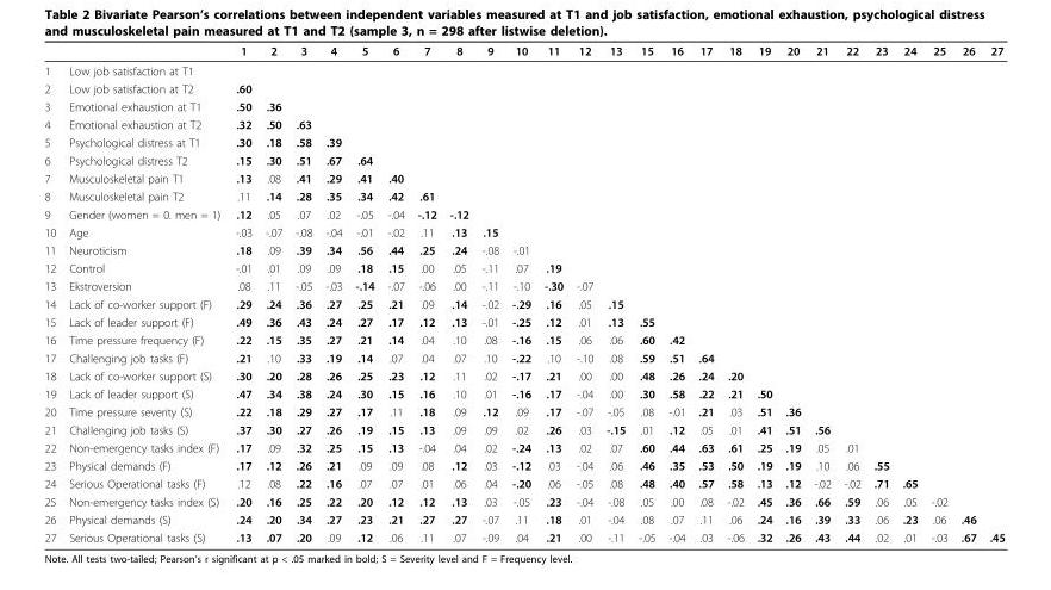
<table><thead><tr><td></td><td></td><td>1</td><td>2</td><td>3</td><td>4</td><td>5</td><td>6</td><td>7</td><td>8</td><td>9</td><td>10</td><td>11</td><td>12</td><td>13</td><td>15</td><td>16</td><td>17</td><td>18</td><td>19</td><td>20</td><td>21</td><td>22</td><td>23</td><td>24</td><td>25</td><td>26</td><td>27</td></tr></thead><tbody><tr><td>1</td><td>Low job satisfaction at T1</td><td></td><td></td><td></td><td></td><td></td><td></td><td></td><td></td><td></td><td></td><td></td><td></td><td></td><td></td><td></td><td></td><td></td><td></td><td></td><td></td><td></td><td></td><td></td><td></td><td></td><td></td></tr><tr><td>2</td><td>Low job satisfaction at T2</td><td>.60</td><td></td><td></td><td></td><td></td><td></td><td></td><td></td><td></td><td></td><td></td><td></td><td></td><td></td><td></td><td></td><td></td><td></td><td></td><td></td><td></td><td></td><td></td><td></td><td></td><td></td></tr><tr><td>3</td><td>Emotional exhaustion at T1</td><td>.50</td><td>.36</td><td></td><td></td><td></td><td></td><td></td><td></td><td></td><td></td><td></td><td></td><td></td><td></td><td></td><td></td><td></td><td></td><td></td><td></td><td></td><td></td><td></td><td></td><td></td><td></td></tr><tr><td>4</td><td>Emotional exhaustion at T2</td><td>.32</td><td>.50</td><td>.63</td><td></td><td></td><td></td><td></td><td></td><td></td><td></td><td></td><td></td><td></td><td></td><td></td><td></td><td></td><td></td><td></td><td></td><td></td><td></td><td></td><td></td><td></td><td></td></tr><tr><td>5</td><td>Psychological distress at T1</td><td>.30</td><td>.18</td><td>.58</td><td>.39</td><td></td><td></td><td></td><td></td><td></td><td></td><td></td><td></td><td></td><td></td><td></td><td></td><td></td><td></td><td></td><td></td><td></td><td></td><td></td><td></td><td></td><td></td></tr><tr><td>6</td><td>Psychological distress T2</td><td>.15</td><td>.30</td><td>.51</td><td>.67</td><td>.64</td><td></td><td></td><td></td><td></td><td></td><td></td><td></td><td></td><td></td><td></td><td></td><td></td><td></td><td></td><td></td><td></td><td></td><td></td><td></td><td></td><td></td></tr><tr><td>7</td><td>Musculoskeletal pain T1</td><td>.13</td><td>.08</td><td>.41</td><td>.29</td><td>.41</td><td>.40</td><td></td><td></td><td></td><td></td><td></td><td></td><td></td><td></td><td></td><td></td><td></td><td></td><td></td><td></td><td></td><td></td><td></td><td></td><td></td><td></td></tr><tr><td>8</td><td>Musculoskeletal pain T2</td><td>.11</td><td>.14</td><td>.28</td><td>.35</td><td>.34</td><td>.42</td><td>.61</td><td></td><td></td><td></td><td></td><td></td><td></td><td></td><td></td><td></td><td></td><td></td><td></td><td></td><td></td><td></td><td></td><td></td><td></td><td></td></tr><tr><td>9</td><td>Gender (women = 0. men = 1)</td><td>.12</td><td>.05</td><td>.07</td><td>.02</td><td>-.05</td><td>-.04</td><td>-.12</td><td>-.12</td><td></td><td></td><td></td><td></td><td></td><td></td><td></td><td></td><td></td><td></td><td></td><td></td><td></td><td></td><td></td><td></td><td></td><td></td></tr><tr><td>10</td><td>Age</td><td>-.03</td><td>-.07</td><td>-.08</td><td>-.04</td><td>-.01</td><td>-.02</td><td>.11</td><td>.13</td><td>.15</td><td></td><td></td><td></td><td></td><td></td><td></td><td></td><td></td><td></td><td></td><td></td><td></td><td></td><td></td><td></td><td></td><td></td></tr><tr><td>11</td><td>Neuroticism</td><td>.18</td><td>.09</td><td>.39</td><td>.34</td><td>.56</td><td>.44</td><td>.25</td><td>.24</td><td>-.08</td><td>-.01</td><td></td><td></td><td></td><td></td><td></td><td></td><td></td><td></td><td></td><td></td><td></td><td></td><td></td><td></td><td></td><td></td></tr><tr><td>12</td><td>Control</td><td>-.01</td><td>.01</td><td>.09</td><td>.09</td><td>.18</td><td>.15</td><td>.00</td><td>.05</td><td>-.11</td><td>.07</td><td>.19</td><td></td><td></td><td></td><td></td><td></td><td></td><td></td><td></td><td></td><td></td><td></td><td></td><td></td><td></td><td></td></tr><tr><td>13</td><td>Ekstroversion</td><td>.08</td><td>.11</td><td>-.05</td><td>-.03</td><td>-.14</td><td>-.07</td><td>-.06</td><td>.00</td><td>-.11</td><td>-.10</td><td>-.30</td><td>-.07</td><td></td><td></td><td></td><td></td><td></td><td></td><td></td><td></td><td></td><td></td><td></td><td></td><td></td><td></td></tr><tr><td>14</td><td>Lack of co-worker support (F)</td><td>.29</td><td>.24</td><td>.36</td><td>.27</td><td>.25</td><td>.21</td><td>.09</td><td>.14</td><td>-.02</td><td>-.29</td><td>.16</td><td>.05</td><td>.15</td><td></td><td></td><td></td><td></td><td></td><td></td><td></td><td></td><td></td><td></td><td></td><td></td><td></td></tr><tr><td>15</td><td>Lack of leader support (F)</td><td>.49</td><td>.36</td><td>.43</td><td>.24</td><td>.27</td><td>.17</td><td>.12</td><td>.13</td><td>-.01</td><td>-.25</td><td>.12</td><td>.01</td><td>.13</td><td>.55</td><td></td><td></td><td></td><td></td><td></td><td></td><td></td><td></td><td></td><td></td><td></td><td></td></tr><tr><td>16</td><td>Time pressure frequency (F)</td><td>.22</td><td>.15</td><td>.35</td><td>.27</td><td>.21</td><td>.14</td><td>.04</td><td>.10</td><td>.08</td><td>-.16</td><td>.15</td><td>.06</td><td>.06</td><td>.60</td><td>.42</td><td></td><td></td><td></td><td></td><td></td><td></td><td></td><td></td><td></td><td></td><td></td></tr><tr><td>17</td><td>Challenging job tasks (F)</td><td>.21</td><td>.10</td><td>.33</td><td>.19</td><td>.14</td><td>.07</td><td>.04</td><td>.07</td><td>.10</td><td>-.22</td><td>.10</td><td>-.10</td><td>.08</td><td>.59</td><td>.51</td><td>.64</td><td></td><td></td><td></td><td></td><td></td><td></td><td></td><td></td><td></td><td></td></tr><tr><td>18</td><td>Lack of co-worker support (S)</td><td>.30</td><td>.20</td><td>.28</td><td>.26</td><td>.25</td><td>.23</td><td>.12</td><td>.11</td><td>.02</td><td>-.17</td><td>.21</td><td>.00</td><td>.00</td><td>.48</td><td>.26</td><td>.24</td><td>.20</td><td></td><td></td><td></td><td></td><td></td><td></td><td></td><td></td><td></td></tr><tr><td>19</td><td>Lack of leader support (S)</td><td>.47</td><td>.34</td><td>.38</td><td>.24</td><td>.30</td><td>.15</td><td>.16</td><td>.10</td><td>.01</td><td>-.16</td><td>.17</td><td>-.04</td><td>.00</td><td>.30</td><td>.58</td><td>.22</td><td>.21</td><td>.50</td><td></td><td></td><td></td><td></td><td></td><td></td><td></td><td></td></tr><tr><td>20</td><td>Time pressure severity (S)</td><td>.22</td><td>.18</td><td>.29</td><td>.27</td><td>.17</td><td>.11</td><td>.18</td><td>.09</td><td>.12</td><td>.09</td><td>.17</td><td>-.07</td><td>-.05</td><td>.08</td><td>-.01</td><td>.21</td><td>.03</td><td>.51</td><td>.36</td><td></td><td></td><td></td><td></td><td></td><td></td><td></td></tr><tr><td>21</td><td>Challenging job tasks (S)</td><td>.37</td><td>.30</td><td>.27</td><td>.26</td><td>.19</td><td>.15</td><td>.13</td><td>.09</td><td>.09</td><td>.02</td><td>.26</td><td>.03</td><td>-.15</td><td>.01</td><td>.12</td><td>.05</td><td>.01</td><td>.41</td><td>.51</td><td>.56</td><td></td><td></td><td></td><td></td><td></td><td></td></tr><tr><td>22</td><td>Non-emergency tasks index (F)</td><td>.17</td><td>.09</td><td>.32</td><td>.25</td><td>.15</td><td>.13</td><td>-.04</td><td>.04</td><td>.02</td><td>-.24</td><td>.13</td><td>.02</td><td>.07</td><td>.60</td><td>.44</td><td>.63</td><td>.61</td><td>.25</td><td>.19</td><td>.05</td><td>.01</td><td></td><td></td><td></td><td></td><td></td></tr><tr><td>23</td><td>Physical demands (F)</td><td>.17</td><td>.12</td><td>.26</td><td>.21</td><td>.09</td><td>.09</td><td>.08</td><td>.12</td><td>.03</td><td>-.12</td><td>.03</td><td>-.04</td><td>.06</td><td>.46</td><td>.35</td><td>.53</td><td>.50</td><td>.19</td><td>.19</td><td>.10</td><td>.06</td><td>.55</td><td></td><td></td><td></td><td></td></tr><tr><td>24</td><td>Serious Operational tasks (F)</td><td>.12</td><td>.08</td><td>.22</td><td>.16</td><td>.07</td><td>.07</td><td>.01</td><td>.06</td><td>.04</td><td>-.20</td><td>.06</td><td>-.05</td><td>.08</td><td>.48</td><td>.40</td><td>.57</td><td>.58</td><td>.13</td><td>.12</td><td>-.02</td><td>-.02</td><td>.71</td><td>.65</td><td></td><td></td><td></td></tr><tr><td>25</td><td>Non-emergency tasks index (S)</td><td>.20</td><td>.16</td><td>.25</td><td>.22</td><td>.20</td><td>.12</td><td>.12</td><td>.13</td><td>.03</td><td>-.05</td><td>.23</td><td>-.04</td><td>-.08</td><td>.05</td><td>.00</td><td>.08</td><td>-.02</td><td>.45</td><td>.36</td><td>.66</td><td>.59</td><td>.06</td><td>.05</td><td>-.02</td><td></td><td></td></tr><tr><td>26</td><td>Physical demands (S)</td><td>.24</td><td>.20</td><td>.34</td><td>.27</td><td>.23</td><td>.21</td><td>.27</td><td>.27</td><td>-.07</td><td>.11</td><td>.18</td><td>.01</td><td>-.04</td><td>.08</td><td>.07</td><td>.11</td><td>.06</td><td>.24</td><td>.16</td><td>.39</td><td>.33</td><td>.06</td><td>.23</td><td>.06</td><td>.46</td><td></td></tr><tr><td>27</td><td>Serious Operational tasks (S)</td><td>.13</td><td>.07</td><td>.20</td><td>.09</td><td>.12</td><td>.06</td><td>.11</td><td>.07</td><td>-.09</td><td>.04</td><td>.21</td><td>.00</td><td>-.11</td><td>-.05</td><td>-.04</td><td>.03</td><td>-.06</td><td>.32</td><td>.26</td><td>.43</td><td>.44</td><td>.02</td><td>.01</td><td>-.03</td><td>.67</td><td>.45</td></tr></tbody></table>